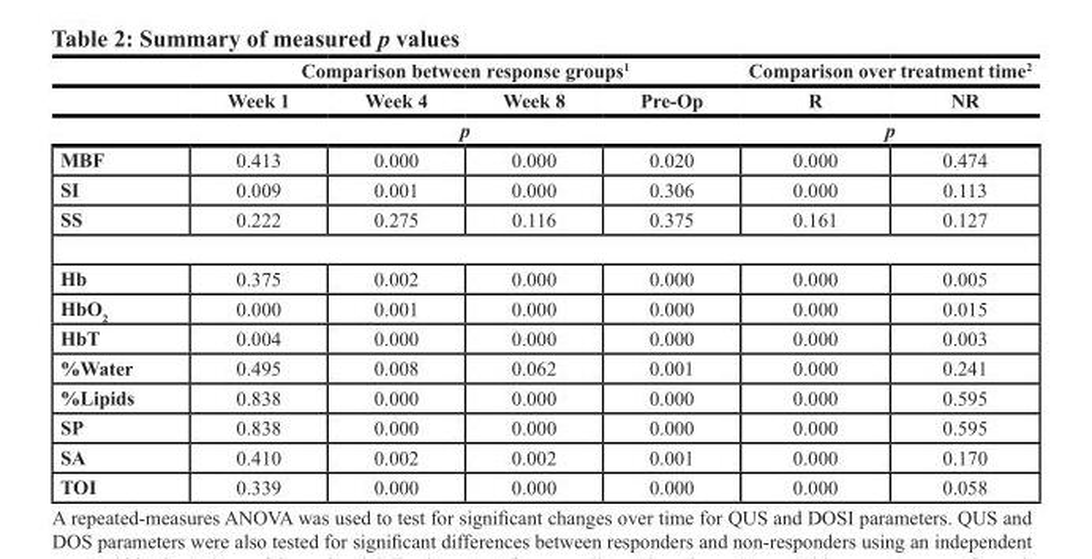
<table><thead><tr><td rowspan="3"></td><td colspan="4">Comparison between response groups<sup>1</sup></td><td colspan="2">Comparison over treatment time<sup>2</sup></td></tr><tr><td>Week 1</td><td>Week 4</td><td>Week 8</td><td>Pre-Op</td><td>R</td><td>NR</td></tr><tr><td colspan="4">p</td><td colspan="2">p</td></tr></thead><tbody><tr><td>MBF</td><td>0.413</td><td>0.000</td><td>0.000</td><td>0.020</td><td>0.000</td><td>0.474</td></tr><tr><td>SI</td><td>0.009</td><td>0.001</td><td>0.000</td><td>0.306</td><td>0.000</td><td>0.113</td></tr><tr><td>SS</td><td>0.222</td><td>0.275</td><td>0.116</td><td>0.375</td><td>0.161</td><td>0.127</td></tr><tr><td>Hb</td><td>0.375</td><td>0.002</td><td>0.000</td><td>0.000</td><td>0.000</td><td>0.005</td></tr><tr><td>HbO<sub>2</sub></td><td>0.000</td><td>0.001</td><td>0.000</td><td>0.000</td><td>0.000</td><td>0.015</td></tr><tr><td>HbT</td><td>0.004</td><td>0.000</td><td>0.000</td><td>0.000</td><td>0.000</td><td>0.003</td></tr><tr><td>%Water</td><td>0.495</td><td>0.008</td><td>0.062</td><td>0.001</td><td>0.000</td><td>0.241</td></tr><tr><td>%Lipids</td><td>0.838</td><td>0.000</td><td>0.000</td><td>0.000</td><td>0.000</td><td>0.595</td></tr><tr><td>SP</td><td>0.838</td><td>0.000</td><td>0.000</td><td>0.000</td><td>0.000</td><td>0.595</td></tr><tr><td>SA</td><td>0.410</td><td>0.002</td><td>0.002</td><td>0.001</td><td>0.000</td><td>0.170</td></tr><tr><td>TOI</td><td>0.339</td><td>0.000</td><td>0.000</td><td>0.000</td><td>0.000</td><td>0.058</td></tr></tbody></table>